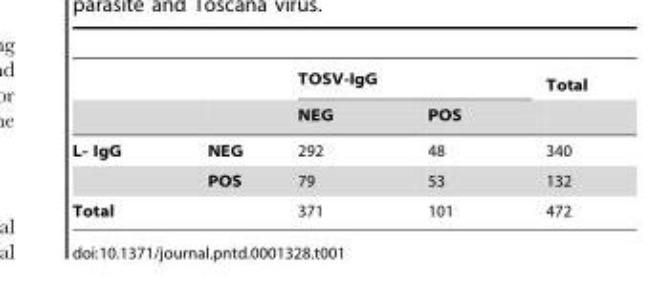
<table><thead><tr><td rowspan="2"></td><td rowspan="2"></td><td colspan="2">TOSV-IgG</td><td rowspan="2">Total</td></tr><tr><td>NEG</td><td>POS</td></tr></thead><tbody><tr><td rowspan="2">L- IgG</td><td>NEG</td><td>292</td><td>48</td><td>340</td></tr><tr><td>POS</td><td>79</td><td>53</td><td>132</td></tr><tr><td colspan="2">Total</td><td>371</td><td>101</td><td>472</td></tr></tbody></table>